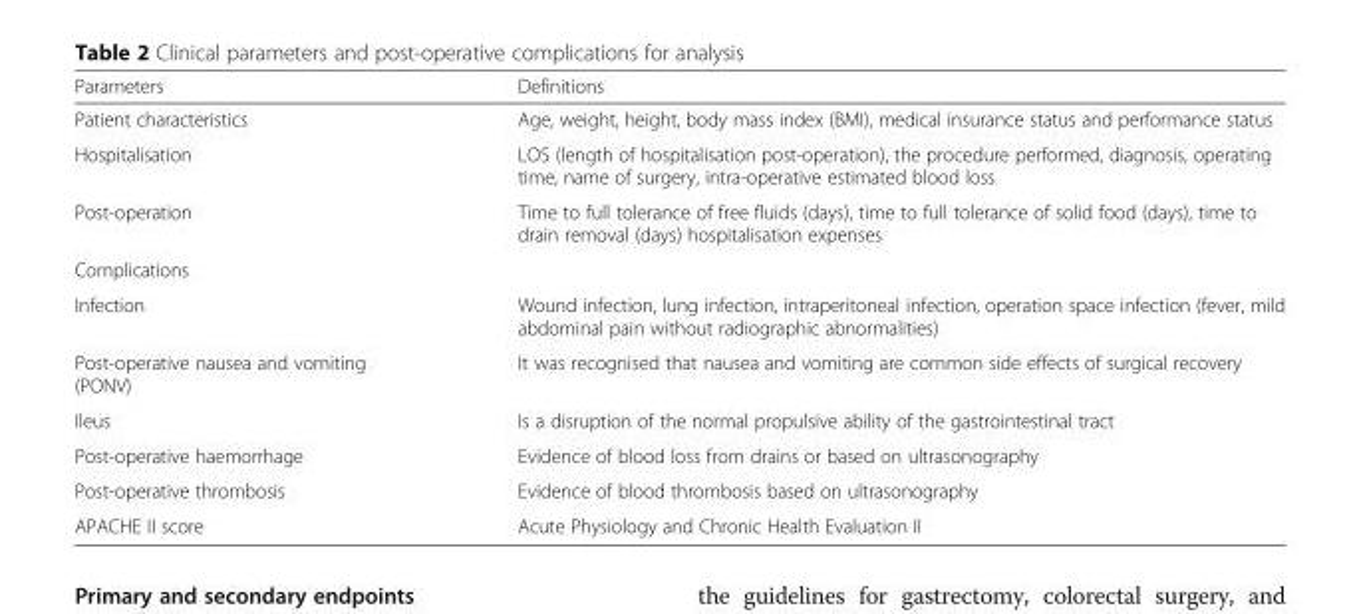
<table><thead><tr><td>Parameters</td><td>Definitions</td></tr></thead><tbody><tr><td>Patient characteristics</td><td>Age, weight, height, body mass index (BMI), medical insurance status and performance status</td></tr><tr><td>Hospitalisation</td><td>LOS (length of hospitalisation post-operation), the procedure performed, diagnosis, operating time, name of surgery, intra-operative estimated blood loss</td></tr><tr><td>Post-operation</td><td>Time to full tolerance of free fluids (days), time to full tolerance of solid food (days), time to drain removal (days) hospitalisation expenses</td></tr><tr><td colspan="2">Complications</td></tr><tr><td>Infection</td><td>Wound infection, lung infection, intraperitoneal infection, operation space infection (fever, mild abdominal pain without radiographic abnormalities)</td></tr><tr><td>Post-operative nausea and vomiting (PONV)</td><td>It was recognised that nausea and vomiting are common side effects of surgical recovery</td></tr><tr><td>Ileus</td><td>Is a disruption of the normal propulsive ability of the gastrointestinal tract</td></tr><tr><td>Post-operative haemorrhage</td><td>Evidence of blood loss from drains or based on ultrasonography</td></tr><tr><td>Post-operative thrombosis</td><td>Evidence of blood thrombosis based on ultrasonography</td></tr><tr><td>APACHE II score</td><td>Acute Physiology and Chronic Health Evaluation II</td></tr></tbody></table>